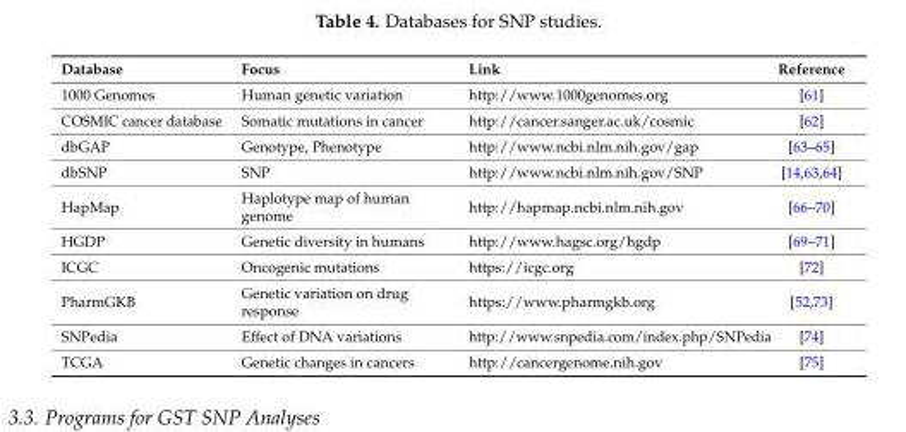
<table><thead><tr><td>Database</td><td>Focus</td><td>Link</td><td>Reference</td></tr></thead><tbody><tr><td>1000 Genomes</td><td>Human genetic variation</td><td>http://www.1000genomes.org</td><td>[61]</td></tr><tr><td>COSMIC cancer database</td><td>Somatic mutations in cancer</td><td>http://cancer.sanger.ac.uk/cosmic</td><td>[62]</td></tr><tr><td>dbGAP</td><td>Genotype, Phenotype</td><td>http://www.ncbi.nlm.nih.gov/gap</td><td>[63–65]</td></tr><tr><td>dbSNP</td><td>SNP</td><td>http://www.ncbi.nlm.nih.gov/SNP</td><td>[14,63,64]</td></tr><tr><td>HapMap</td><td>Haplotype map of human genome</td><td>http://hapmap.ncbi.nlm.nih.gov</td><td>[66–70]</td></tr><tr><td>HGDP</td><td>Genetic diversity in humans</td><td>http://www.hagsc.org/hgdp</td><td>[69–71]</td></tr><tr><td>ICGC</td><td>Oncogenic mutations</td><td>https://icgc.org</td><td>[72]</td></tr><tr><td>PharmGKB</td><td>Genetic variation on drug response</td><td>https://www.pharmgkb.org</td><td>[52,73]</td></tr><tr><td>SNPedia</td><td>Effect of DNA variations</td><td>http://www.snpedia.com/index.php/SNPedia</td><td>[74]</td></tr><tr><td>TCGA</td><td>Genetic changes in cancers</td><td>http://cancergenome.nih.gov</td><td>[75]</td></tr></tbody></table>